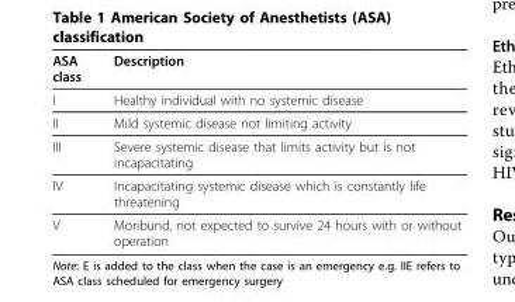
<table><thead><tr><td>ASA class</td><td>Description</td></tr></thead><tbody><tr><td>I</td><td>Healthy individual with no systemic disease</td></tr><tr><td>II</td><td>Mild systemic disease not limiting activity</td></tr><tr><td>III</td><td>Severe systemic disease that limits activity but is not incapacitating</td></tr><tr><td>IV</td><td>Incapacitating systemic disease which is constantly life threatening</td></tr><tr><td>V</td><td>Moribund, not expected to survive 24 hours with or without operation</td></tr></tbody></table>